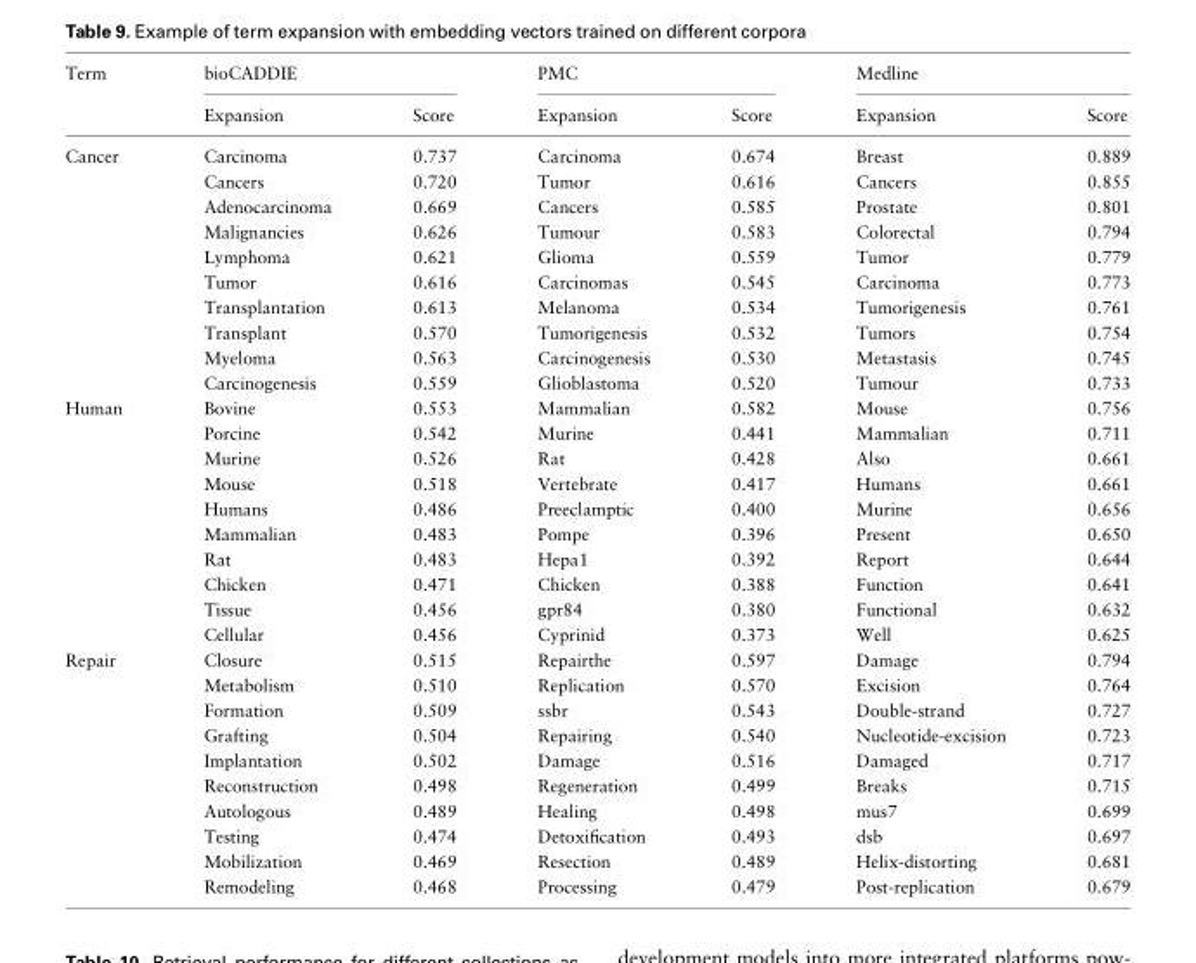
<table><thead><tr><td rowspan="2">Term</td><td colspan="2">bioCADDIE</td><td colspan="2">PMC</td><td colspan="2">Medline</td></tr><tr><td>Expansion</td><td>Score</td><td>Expansion</td><td>Score</td><td>Expansion</td><td>Score</td></tr></thead><tbody><tr><td rowspan="10">Cancer</td><td>Carcinoma</td><td>0.737</td><td>Carcinoma</td><td>0.674</td><td>Breast</td><td>0.889</td></tr><tr><td>Cancers</td><td>0.720</td><td>Tumor</td><td>0.616</td><td>Cancers</td><td>0.855</td></tr><tr><td>Adenocarcinoma</td><td>0.669</td><td>Cancers</td><td>0.585</td><td>Prostate</td><td>0.801</td></tr><tr><td>Malignancies</td><td>0.626</td><td>Tumour</td><td>0.583</td><td>Colorectal</td><td>0.794</td></tr><tr><td>Lymphoma</td><td>0.621</td><td>Glioma</td><td>0.559</td><td>Tumor</td><td>0.779</td></tr><tr><td>Tumor</td><td>0.616</td><td>Carcinomas</td><td>0.545</td><td>Carcinoma</td><td>0.773</td></tr><tr><td>Transplantation</td><td>0.613</td><td>Melanoma</td><td>0.534</td><td>Tumorigenesis</td><td>0.761</td></tr><tr><td>Transplant</td><td>0.570</td><td>Tumorigenesis</td><td>0.532</td><td>Tumors</td><td>0.754</td></tr><tr><td>Myeloma</td><td>0.563</td><td>Carcinogenesis</td><td>0.530</td><td>Metastasis</td><td>0.745</td></tr><tr><td>Carcinogenesis</td><td>0.559</td><td>Glioblastoma</td><td>0.520</td><td>Tumour</td><td>0.733</td></tr><tr><td rowspan="10">Human</td><td>Bovine</td><td>0.553</td><td>Mammalian</td><td>0.582</td><td>Mouse</td><td>0.756</td></tr><tr><td>Porcine</td><td>0.542</td><td>Murine</td><td>0.441</td><td>Mammalian</td><td>0.711</td></tr><tr><td>Murine</td><td>0.526</td><td>Rat</td><td>0.428</td><td>Also</td><td>0.661</td></tr><tr><td>Mouse</td><td>0.518</td><td>Vertebrate</td><td>0.417</td><td>Humans</td><td>0.661</td></tr><tr><td>Humans</td><td>0.486</td><td>Preeclamptic</td><td>0.400</td><td>Murine</td><td>0.656</td></tr><tr><td>Mammalian</td><td>0.483</td><td>Pompe</td><td>0.396</td><td>Present</td><td>0.650</td></tr><tr><td>Rat</td><td>0.483</td><td>Hepa1</td><td>0.392</td><td>Report</td><td>0.644</td></tr><tr><td>Chicken</td><td>0.471</td><td>Chicken</td><td>0.388</td><td>Function</td><td>0.641</td></tr><tr><td>Tissue</td><td>0.456</td><td>gpr84</td><td>0.380</td><td>Functional</td><td>0.632</td></tr><tr><td>Cellular</td><td>0.456</td><td>Cyprinid</td><td>0.373</td><td>Well</td><td>0.625</td></tr><tr><td rowspan="10">Repair</td><td>Closure</td><td>0.515</td><td>Repairthe</td><td>0.597</td><td>Damage</td><td>0.794</td></tr><tr><td>Metabolism</td><td>0.510</td><td>Replication</td><td>0.570</td><td>Excision</td><td>0.764</td></tr><tr><td>Formation</td><td>0.509</td><td>ssbr</td><td>0.543</td><td>Double-strand</td><td>0.727</td></tr><tr><td>Grafting</td><td>0.504</td><td>Repairing</td><td>0.540</td><td>Nucleotide-excision</td><td>0.723</td></tr><tr><td>Implantation</td><td>0.502</td><td>Damage</td><td>0.516</td><td>Damaged</td><td>0.717</td></tr><tr><td>Reconstruction</td><td>0.498</td><td>Regeneration</td><td>0.499</td><td>Breaks</td><td>0.715</td></tr><tr><td>Autologous</td><td>0.489</td><td>Healing</td><td>0.498</td><td>mus7</td><td>0.699</td></tr><tr><td>Testing</td><td>0.474</td><td>Detoxification</td><td>0.493</td><td>dsb</td><td>0.697</td></tr><tr><td>Mobilization</td><td>0.469</td><td>Resection</td><td>0.489</td><td>Helix-distorting</td><td>0.681</td></tr><tr><td>Remodeling</td><td>0.468</td><td>Processing</td><td>0.479</td><td>Post-replication</td><td>0.679</td></tr></tbody></table>